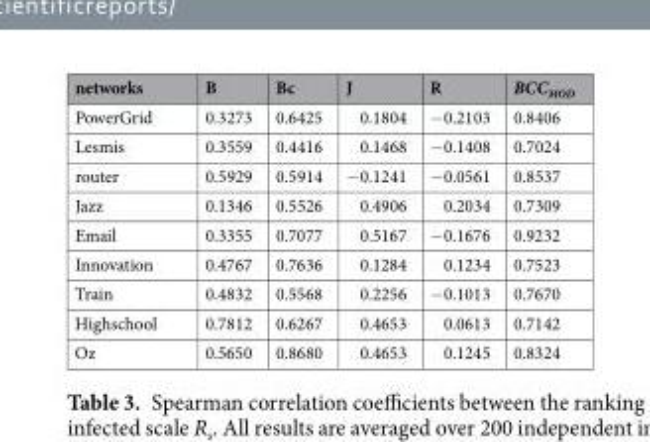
<table><thead><tr><td>networks</td><td>B</td><td>Bc</td><td>J</td><td>R</td><td>BCC<sub>MOD</sub></td></tr></thead><tbody><tr><td>PowerGrid</td><td>0.3273</td><td>0.6425</td><td>0.1804</td><td>−0.2103</td><td>0.8406</td></tr><tr><td>Lesmis</td><td>0.3559</td><td>0.4416</td><td>0.1468</td><td>−0.1408</td><td>0.7024</td></tr><tr><td>router</td><td>0.5929</td><td>0.5914</td><td>−0.1241</td><td>−0.0561</td><td>0.8537</td></tr><tr><td>Jazz</td><td>0.1346</td><td>0.5526</td><td>0.4906</td><td>0.2034</td><td>0.7309</td></tr><tr><td>Email</td><td>0.3355</td><td>0.7077</td><td>0.5167</td><td>−0.1676</td><td>0.9232</td></tr><tr><td>Innovation</td><td>0.4767</td><td>0.7636</td><td>0.1284</td><td>0.1234</td><td>0.7523</td></tr><tr><td>Train</td><td>0.4832</td><td>0.5568</td><td>0.2256</td><td>−0.1013</td><td>0.7670</td></tr><tr><td>Highschool</td><td>0.7812</td><td>0.6267</td><td>0.4653</td><td>0.0613</td><td>0.7142</td></tr><tr><td>Oz</td><td>0.5650</td><td>0.8680</td><td>0.4653</td><td>0.1245</td><td>0.8324</td></tr></tbody></table>